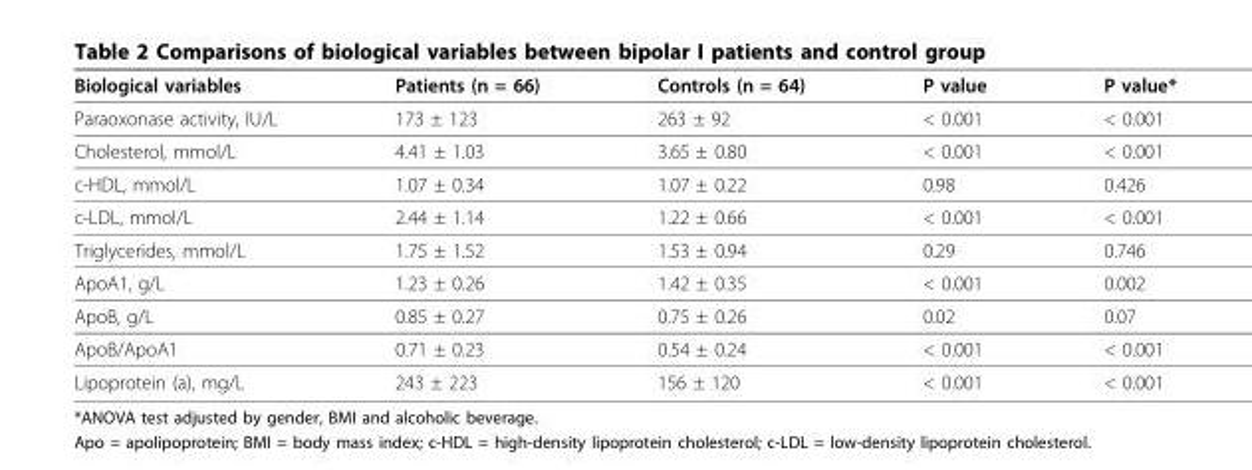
<table><thead><tr><td>Biological variables</td><td>Patients (n = 66)</td><td>Controls (n = 64)</td><td>P value</td><td>P value*</td></tr></thead><tbody><tr><td>Paraoxonase activity, IU/L</td><td>173 ± 123</td><td>263 ± 92</td><td>&lt; 0.001</td><td>&lt; 0.001</td></tr><tr><td>Cholesterol, mmol/L</td><td>4.41 ± 1.03</td><td>3.65 ± 0.80</td><td>&lt; 0.001</td><td>&lt; 0.001</td></tr><tr><td>c-HDL, mmol/L</td><td>1.07 ± 0.34</td><td>1.07 ± 0.22</td><td>0.98</td><td>0.426</td></tr><tr><td>c-LDL, mmol/L</td><td>2.44 ± 1.14</td><td>1.22 ± 0.66</td><td>&lt; 0.001</td><td>&lt; 0.001</td></tr><tr><td>Triglycerides, mmol/L</td><td>1.75 ± 1.52</td><td>1.53 ± 0.94</td><td>0.29</td><td>0.746</td></tr><tr><td>ApoA1, g/L</td><td>1.23 ± 0.26</td><td>1.42 ± 0.35</td><td>&lt; 0.001</td><td>0.002</td></tr><tr><td>ApoB, g/L</td><td>0.85 ± 0.27</td><td>0.75 ± 0.26</td><td>0.02</td><td>0.07</td></tr><tr><td>ApoB/ApoA1</td><td>0.71 ± 0.23</td><td>0.54 ± 0.24</td><td>&lt; 0.001</td><td>&lt; 0.001</td></tr><tr><td>Lipoprotein (a), mg/L</td><td>243 ± 223</td><td>156 ± 120</td><td>&lt; 0.001</td><td>&lt; 0.001</td></tr></tbody></table>